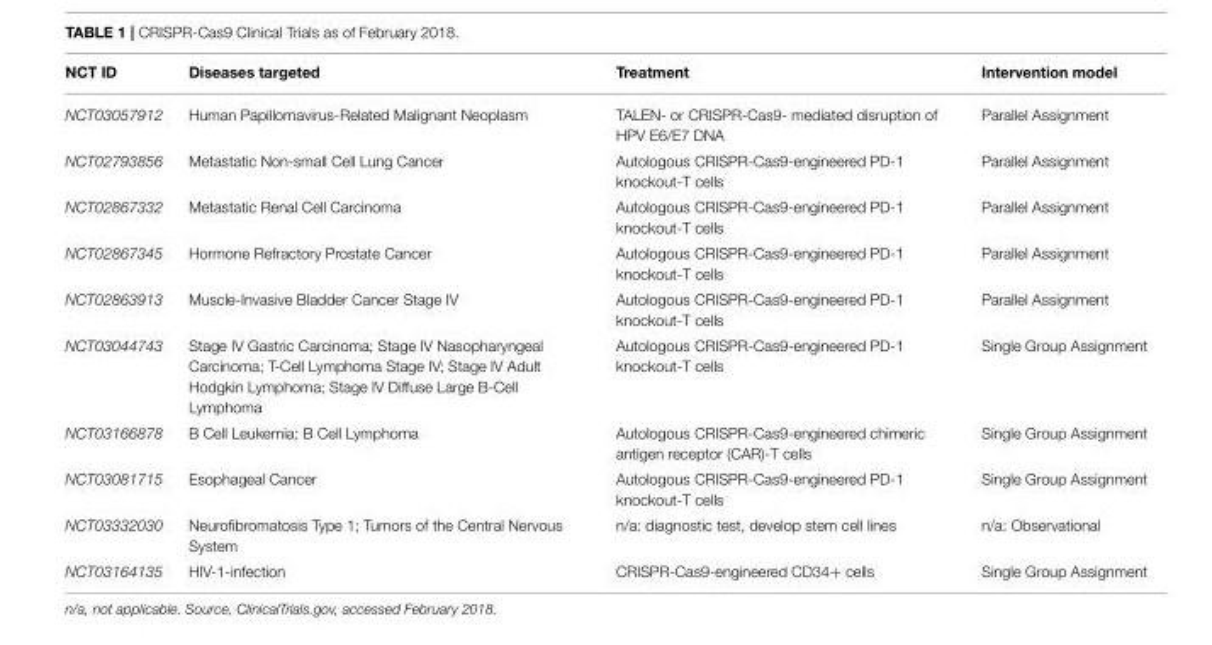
<table><thead><tr><td>NCT ID</td><td>Diseases targeted</td><td>Treatment</td><td>Intervention model</td></tr></thead><tbody><tr><td>NCT03057912</td><td>Human Papillomavirus-Related Malignant Neoplasm</td><td>TALEN- or CRISPR-Cas9- mediated disruption of HPV E6/E7 DNA</td><td>Parallel Assignment</td></tr><tr><td>NCT02793856</td><td>Metastatic Non-small Cell Lung Cancer</td><td>Autologous CRISPR-Cas9-engineered PD-1 knockout-T cells</td><td>Parallel Assignment</td></tr><tr><td>NCT02867332</td><td>Metastatic Renal Cell Carcinoma</td><td>Autologous CRISPR-Cas9-engineered PD-1 knockout-T cells</td><td>Parallel Assignment</td></tr><tr><td>NCT02867345</td><td>Hormone Refractory Prostate Cancer</td><td>Autologous CRISPR-Cas9-engineered PD-1 knockout-T cells</td><td>Parallel Assignment</td></tr><tr><td>NCT02863913</td><td>Muscle-Invasive Bladder Cancer Stage IV</td><td>Autologous CRISPR-Cas9-engineered PD-1 knockout-T cells</td><td>Parallel Assignment</td></tr><tr><td>NCT03044743</td><td>Stage IV Gastric Carcinoma; Stage IV Nasopharyngeal Carcinoma; T-Cell Lymphoma Stage IV; Stage IV Adult Hodgkin Lymphoma; Stage IV Diffuse Large B-Cell Lymphoma</td><td>Autologous CRISPR-Cas9-engineered PD-1 knockout-T cells</td><td>Single Group Assignment</td></tr><tr><td>NCT03166878</td><td>B Cell Leukemia; B Cell Lymphoma</td><td>Autologous CRISPR-Cas9-engineered chimeric antigen receptor (CAR)-T cells</td><td>Single Group Assignment</td></tr><tr><td>NCT03081715</td><td>Esophageal Cancer</td><td>Autologous CRISPR-Cas9-engineered PD-1 knockout-T cells</td><td>Single Group Assignment</td></tr><tr><td>NCT03332030</td><td>Neurofibromatosis Type 1; Tumors of the Central Nervous System</td><td>n/a: diagnostic test, develop stem cell lines</td><td>n/a: Observational</td></tr><tr><td>NCT03164135</td><td>HIV-1-infection</td><td>CRISPR-Cas9-engineered CD34+ cells</td><td>Single Group Assignment</td></tr></tbody></table>